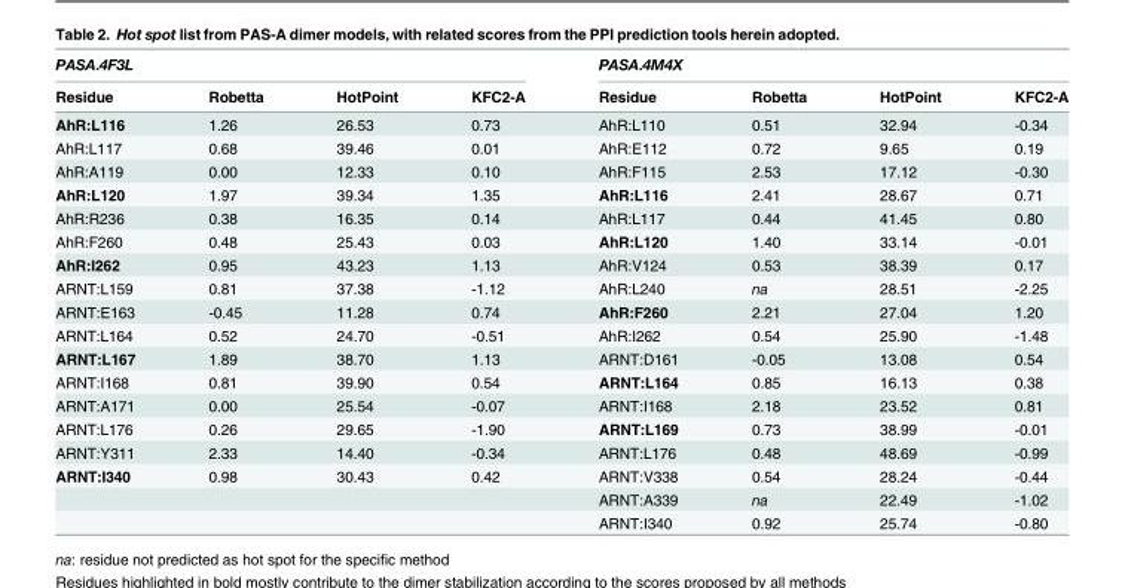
<table><thead><tr><td colspan="4">PASA.4F3L</td><td colspan="4">PASA.4M4X</td></tr><tr><td>Residue</td><td>Robetta</td><td>HotPoint</td><td>KFC2-A</td><td>Residue</td><td>Robetta</td><td>HotPoint</td><td>KFC2-A</td></tr></thead><tbody><tr><td>AhR:L116</td><td>1.26</td><td>26.53</td><td>0.73</td><td>AhR:L110</td><td>0.51</td><td>32.94</td><td>-0.34</td></tr><tr><td>AhR:L117</td><td>0.68</td><td>39.46</td><td>0.01</td><td>AhR:E112</td><td>0.72</td><td>9.65</td><td>0.19</td></tr><tr><td>AhR:A119</td><td>0.00</td><td>12.33</td><td>0.10</td><td>AhR:F115</td><td>2.53</td><td>17.12</td><td>-0.30</td></tr><tr><td>AhR:L120</td><td>1.97</td><td>39.34</td><td>1.35</td><td>AhR:L116</td><td>2.41</td><td>28.67</td><td>0.71</td></tr><tr><td>AhR:R236</td><td>0.38</td><td>16.35</td><td>0.14</td><td>AhR:L117</td><td>0.44</td><td>41.45</td><td>0.80</td></tr><tr><td>AhR:F260</td><td>0.48</td><td>25.43</td><td>0.03</td><td>AhR:L120</td><td>1.40</td><td>33.14</td><td>-0.01</td></tr><tr><td>AhR:I262</td><td>0.95</td><td>43.23</td><td>1.13</td><td>AhR:V124</td><td>0.53</td><td>38.39</td><td>0.17</td></tr><tr><td>ARNT:L159</td><td>0.81</td><td>37.38</td><td>-1.12</td><td>AhR:L240</td><td>na</td><td>28.51</td><td>-2.25</td></tr><tr><td>ARNT:E163</td><td>-0.45</td><td>11.28</td><td>0.74</td><td>AhR:F260</td><td>2.21</td><td>27.04</td><td>1.20</td></tr><tr><td>ARNT:L164</td><td>0.52</td><td>24.70</td><td>-0.51</td><td>AhR:I262</td><td>0.54</td><td>25.90</td><td>-1.48</td></tr><tr><td>ARNT:L167</td><td>1.89</td><td>38.70</td><td>1.13</td><td>ARNT:D161</td><td>-0.05</td><td>13.08</td><td>0.54</td></tr><tr><td>ARNT:I168</td><td>0.81</td><td>39.90</td><td>0.54</td><td>ARNT:L164</td><td>0.85</td><td>16.13</td><td>0.38</td></tr><tr><td>ARNT:A171</td><td>0.00</td><td>25.54</td><td>-0.07</td><td>ARNT:I168</td><td>2.18</td><td>23.52</td><td>0.81</td></tr><tr><td>ARNT:L176</td><td>0.26</td><td>29.65</td><td>-1.90</td><td>ARNT:L169</td><td>0.73</td><td>38.99</td><td>-0.01</td></tr><tr><td>ARNT:Y311</td><td>2.33</td><td>14.40</td><td>-0.34</td><td>ARNT:L176</td><td>0.48</td><td>48.69</td><td>-0.99</td></tr><tr><td rowspan="3">ARNT:I340</td><td>0.98</td><td>30.43</td><td>0.42</td><td>ARNT:V338</td><td>0.54</td><td>28.24</td><td>-0.44</td></tr><tr><td></td><td></td><td></td><td>ARNT:A339</td><td>na</td><td>22.49</td><td>-1.02</td></tr><tr><td></td><td></td><td></td><td>ARNT:I340</td><td>0.92</td><td>25.74</td><td>-0.80</td></tr></tbody></table>